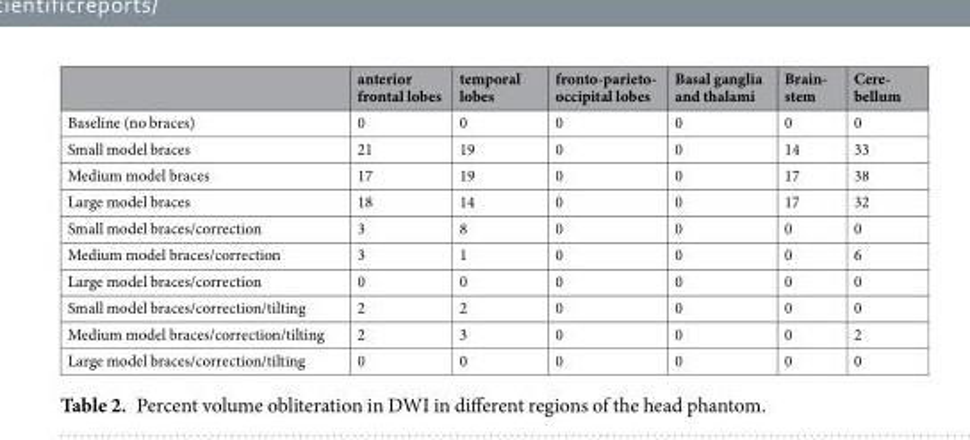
<table><thead><tr><td></td><td>anterior frontal lobes</td><td>temporal lobes</td><td>fronto-parieto- occipital lobes</td><td>Basal ganglia and thalami</td><td>Brain- stem</td><td>Cere- bellum</td></tr></thead><tbody><tr><td>Baseline (no braces)</td><td>0</td><td>0</td><td>0</td><td>0</td><td>0</td><td>0</td></tr><tr><td>Small model braces</td><td>21</td><td>19</td><td>0</td><td>0</td><td>14</td><td>33</td></tr><tr><td>Medium model braces</td><td>17</td><td>19</td><td>0</td><td>0</td><td>17</td><td>38</td></tr><tr><td>Large model braces</td><td>18</td><td>14</td><td>0</td><td>0</td><td>17</td><td>32</td></tr><tr><td>Small model braces/correction</td><td>3</td><td>8</td><td>0</td><td>0</td><td>0</td><td>0</td></tr><tr><td>Medium model braces/correction</td><td>3</td><td>1</td><td>0</td><td>0</td><td>0</td><td>6</td></tr><tr><td>Large model braces/correction</td><td>0</td><td>0</td><td>0</td><td>0</td><td>0</td><td>0</td></tr><tr><td>Small model braces/correction/tilting</td><td>2</td><td>2</td><td>0</td><td>0</td><td>0</td><td>0</td></tr><tr><td>Medium model braces/correction/tilting</td><td>2</td><td>3</td><td>0</td><td>0</td><td>0</td><td>2</td></tr><tr><td>Large model braces/correction/tilting</td><td>0</td><td>0</td><td>0</td><td>0</td><td>0</td><td>0</td></tr></tbody></table>